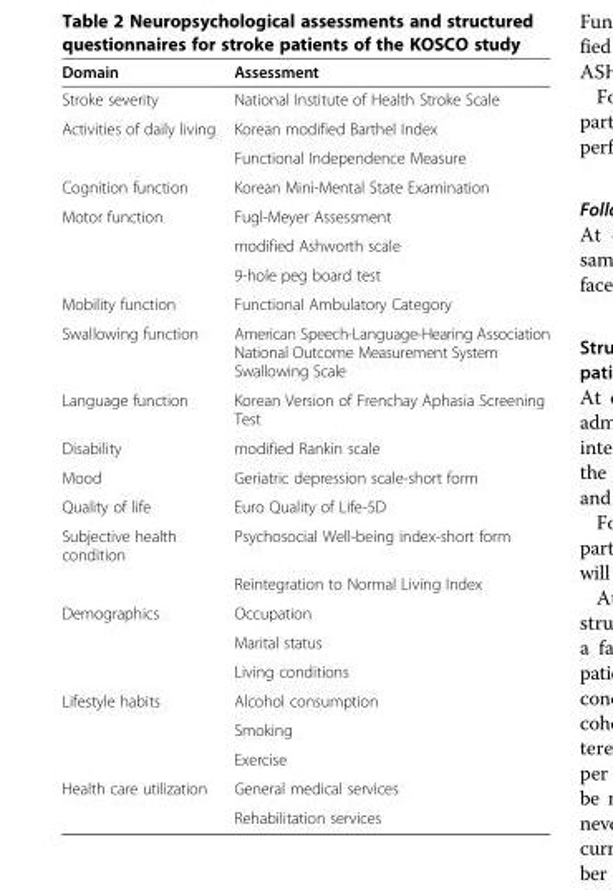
<table><thead><tr><td>Domain</td><td>Assessment</td></tr></thead><tbody><tr><td>Stroke severity</td><td>National Institute of Health Stroke Scale</td></tr><tr><td rowspan="2">Activities of daily living</td><td>Korean modified Barthel Index</td></tr><tr><td>Functional Independence Measure</td></tr><tr><td>Cognition function</td><td>Korean Mini-Mental State Examination</td></tr><tr><td rowspan="3">Motor function</td><td>Fugl-Meyer Assessment</td></tr><tr><td>modified Ashworth scale</td></tr><tr><td>9-hole peg board test</td></tr><tr><td>Mobility function</td><td>Functional Ambulatory Category</td></tr><tr><td>Swallowing function</td><td>American Speech-Language-Hearing Association National Outcome Measurement System Swallowing Scale</td></tr><tr><td>Language function</td><td>Korean Version of Frenchay Aphasia Screening Test</td></tr><tr><td>Disability</td><td>modified Rankin scale</td></tr><tr><td>Mood</td><td>Geriatric depression scale-short form</td></tr><tr><td>Quality of life</td><td>Euro Quality of Life-5D</td></tr><tr><td rowspan="2">Subjective health condition</td><td>Psychosocial Well-being index-short form</td></tr><tr><td>Reintegration to Normal Living Index</td></tr><tr><td rowspan="3">Demographics</td><td>Occupation</td></tr><tr><td>Marital status</td></tr><tr><td>Living conditions</td></tr><tr><td rowspan="3">Lifestyle habits</td><td>Alcohol consumption</td></tr><tr><td>Smoking</td></tr><tr><td>Exercise</td></tr><tr><td rowspan="2">Health care utilization</td><td>General medical services</td></tr><tr><td>Rehabilitation services</td></tr></tbody></table>